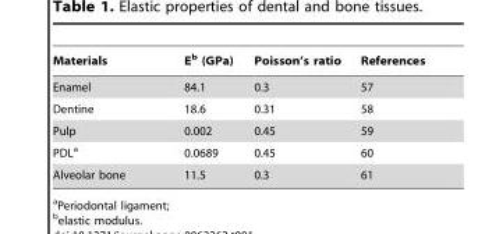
<table><thead><tr><td>Materials</td><td>E<sup>b</sup> (GPa)</td><td>Poisson’s ratio</td><td>References</td></tr></thead><tbody><tr><td>Enamel</td><td>84.1</td><td>0.3</td><td>57</td></tr><tr><td>Dentine</td><td>18.6</td><td>0.31</td><td>58</td></tr><tr><td>Pulp</td><td>0.002</td><td>0.45</td><td>59</td></tr><tr><td>PDL<sup>a</sup></td><td>0.0689</td><td>0.45</td><td>60</td></tr><tr><td>Alveolar bone</td><td>11.5</td><td>0.3</td><td>61</td></tr></tbody></table>